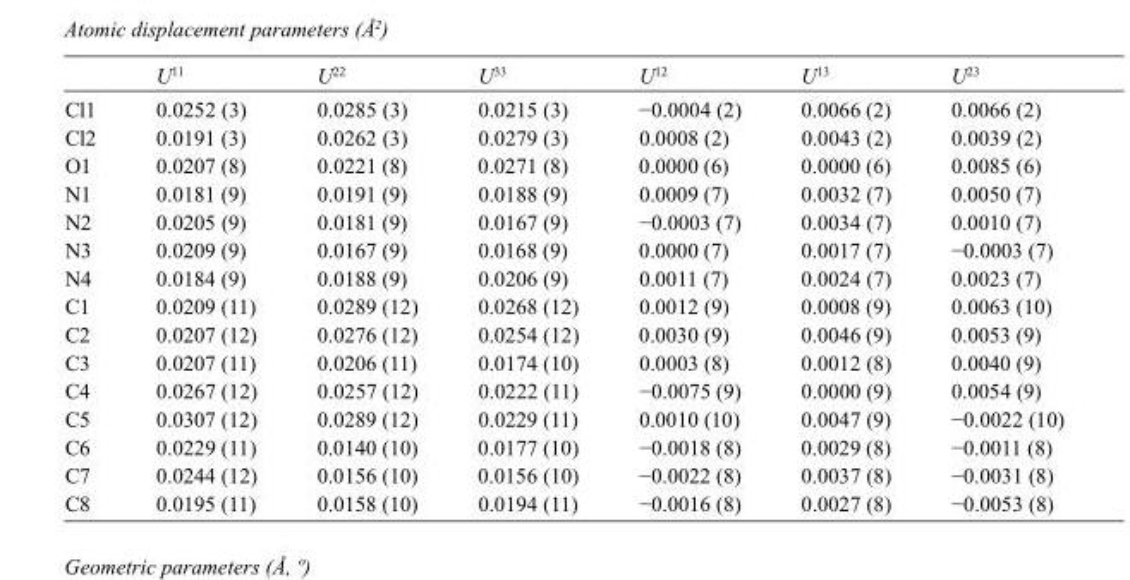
<table><thead><tr><td></td><td>U<sup>11</sup></td><td>U<sup>22</sup></td><td>U<sup>33</sup></td><td>U<sup>12</sup></td><td>U<sup>13</sup></td><td>U<sup>23</sup></td></tr></thead><tbody><tr><td>Cl1</td><td>0.0252 (3)</td><td>0.0285 (3)</td><td>0.0215 (3)</td><td>−0.0004 (2)</td><td>0.0066 (2)</td><td>0.0066 (2)</td></tr><tr><td>Cl2</td><td>0.0191 (3)</td><td>0.0262 (3)</td><td>0.0279 (3)</td><td>0.0008 (2)</td><td>0.0043 (2)</td><td>0.0039 (2)</td></tr><tr><td>O1</td><td>0.0207 (8)</td><td>0.0221 (8)</td><td>0.0271 (8)</td><td>0.0000 (6)</td><td>0.0000 (6)</td><td>0.0085 (6)</td></tr><tr><td>N1</td><td>0.0181 (9)</td><td>0.0191 (9)</td><td>0.0188 (9)</td><td>0.0009 (7)</td><td>0.0032 (7)</td><td>0.0050 (7)</td></tr><tr><td>N2</td><td>0.0205 (9)</td><td>0.0181 (9)</td><td>0.0167 (9)</td><td>−0.0003 (7)</td><td>0.0034 (7)</td><td>0.0010 (7)</td></tr><tr><td>N3</td><td>0.0209 (9)</td><td>0.0167 (9)</td><td>0.0168 (9)</td><td>0.0000 (7)</td><td>0.0017 (7)</td><td>−0.0003 (7)</td></tr><tr><td>N4</td><td>0.0184 (9)</td><td>0.0188 (9)</td><td>0.0206 (9)</td><td>0.0011 (7)</td><td>0.0024 (7)</td><td>0.0023 (7)</td></tr><tr><td>C1</td><td>0.0209 (11)</td><td>0.0289 (12)</td><td>0.0268 (12)</td><td>0.0012 (9)</td><td>0.0008 (9)</td><td>0.0063 (10)</td></tr><tr><td>C2</td><td>0.0207 (12)</td><td>0.0276 (12)</td><td>0.0254 (12)</td><td>0.0030 (9)</td><td>0.0046 (9)</td><td>0.0053 (9)</td></tr><tr><td>C3</td><td>0.0207 (11)</td><td>0.0206 (11)</td><td>0.0174 (10)</td><td>0.0003 (8)</td><td>0.0012 (8)</td><td>0.0040 (9)</td></tr><tr><td>C4</td><td>0.0267 (12)</td><td>0.0257 (12)</td><td>0.0222 (11)</td><td>−0.0075 (9)</td><td>0.0000 (9)</td><td>0.0054 (9)</td></tr><tr><td>C5</td><td>0.0307 (12)</td><td>0.0289 (12)</td><td>0.0229 (11)</td><td>0.0010 (10)</td><td>0.0047 (9)</td><td>−0.0022 (10)</td></tr><tr><td>C6</td><td>0.0229 (11)</td><td>0.0140 (10)</td><td>0.0177 (10)</td><td>−0.0018 (8)</td><td>0.0029 (8)</td><td>−0.0011 (8)</td></tr><tr><td>C7</td><td>0.0244 (12)</td><td>0.0156 (10)</td><td>0.0156 (10)</td><td>−0.0022 (8)</td><td>0.0037 (8)</td><td>−0.0031 (8)</td></tr><tr><td>C8</td><td>0.0195 (11)</td><td>0.0158 (10)</td><td>0.0194 (11)</td><td>−0.0016 (8)</td><td>0.0027 (8)</td><td>−0.0053 (8)</td></tr></tbody></table>